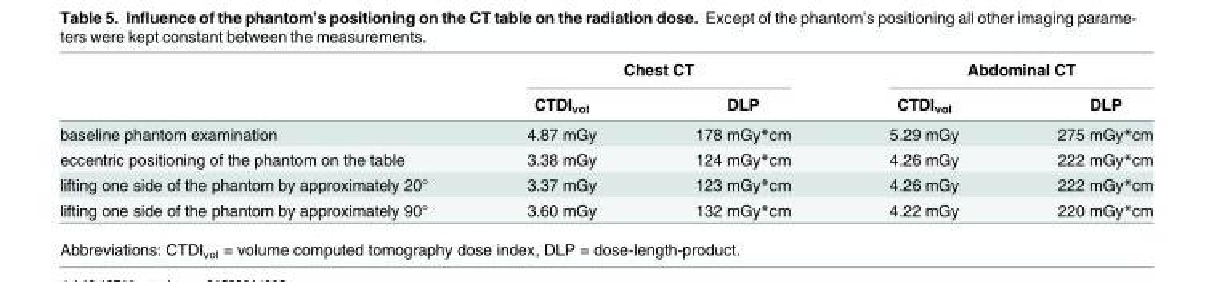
<table><thead><tr><td rowspan="2"></td><td colspan="2">Chest CT</td><td colspan="2">Abdominal CT</td></tr><tr><td>CTDI<sub>vol</sub></td><td>DLP</td><td>CTDI<sub>vol</sub></td><td>DLP</td></tr></thead><tbody><tr><td>baseline phantom examination</td><td>4.87 mGy</td><td>178 mGy*cm</td><td>5.29 mGy</td><td>275 mGy*cm</td></tr><tr><td>eccentric positioning of the phantom on the table</td><td>3.38 mGy</td><td>124 mGy*cm</td><td>4.26 mGy</td><td>222 mGy*cm</td></tr><tr><td>lifting one side of the phantom by approximately 20°</td><td>3.37 mGy</td><td>123 mGy*cm</td><td>4.26 mGy</td><td>222 mGy*cm</td></tr><tr><td>lifting one side of the phantom by approximately 90°</td><td>3.60 mGy</td><td>132 mGy*cm</td><td>4.22 mGy</td><td>220 mGy*cm</td></tr></tbody></table>